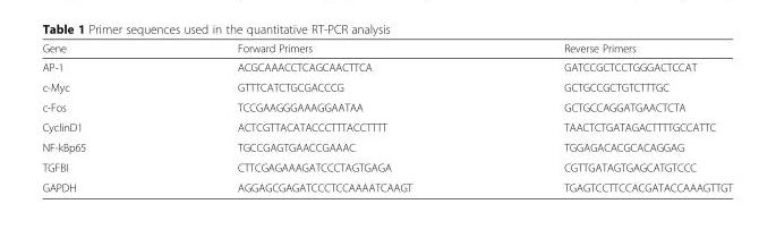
<table><thead><tr><td>Gene</td><td>Forward Primers</td><td>Reverse Primers</td></tr></thead><tbody><tr><td>AP-1</td><td>ACGCAAACCTCAGCAACTTCA</td><td>GATCCGCTCCTGGGACTCCAT</td></tr><tr><td>c-Myc</td><td>GTTTCATCTGCGACCCG</td><td>GCTGCCGCTGTCTTTGC</td></tr><tr><td>c-Fos</td><td>TCCGAAGGGAAAGGAATAA</td><td>GCTGCCAGGATGAACTCTA</td></tr><tr><td>CyclinD1</td><td>ACTCGTTACATACCCTTTACCTTTT</td><td>TAACTCTGATAGACTTTTGCCATTC</td></tr><tr><td>NF-kBp65</td><td>TGCCGAGTGAACCGAAAC</td><td>TGGAGACACGCACAGGAG</td></tr><tr><td>TGFBI</td><td>CTTCGAGAAAGATCCCTAGTGAGA</td><td>CGTTGATAGTGAGCATGTCCC</td></tr><tr><td>GAPDH</td><td>AGGAGCGAGATCCCTCCAAAATCAAGT</td><td>TGAGTCCTTCCACGATACCAAAGTTGT</td></tr></tbody></table>